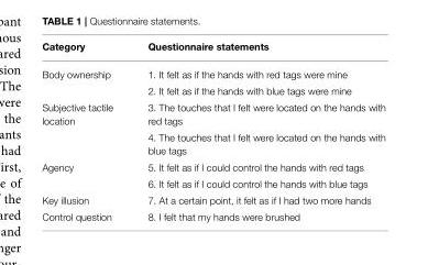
<table><thead><tr><td>Category</td><td>Questionnaire statements</td></tr></thead><tbody><tr><td rowspan="2">Body ownership</td><td>1. It felt as if the hands with red tags were mine</td></tr><tr><td>2. It felt as if the hands with blue tags were mine</td></tr><tr><td rowspan="2">Subjective tactile location</td><td>3. The touches that I felt were located on the hands with red tags</td></tr><tr><td>4. The touches that I felt were located on the hands with blue tags</td></tr><tr><td rowspan="2">Agency</td><td>5. It felt as if I could control the hands with red tags</td></tr><tr><td>6. It felt as if I could control the hands with blue tags</td></tr><tr><td>Key illusion</td><td>7. At a certain point, it felt as if I had two more hands</td></tr><tr><td>Control question</td><td>8. I felt that my hands were brushed</td></tr></tbody></table>